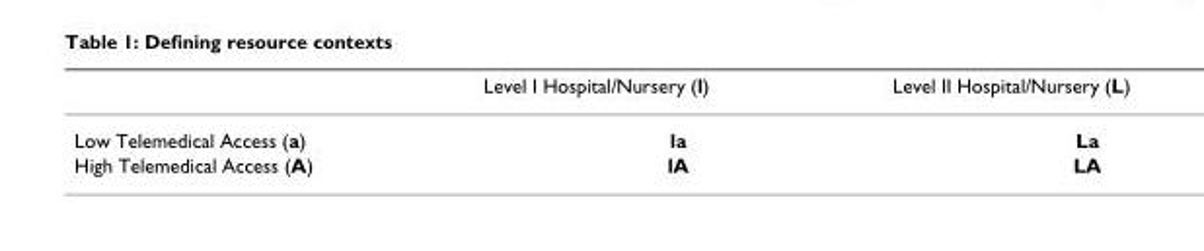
<table><thead><tr><td></td><td>Level I Hospital/Nursery (l)</td><td>Level II Hospital/Nursery (L)</td></tr></thead><tbody><tr><td>Low Telemedical Access (a)</td><td>la</td><td>La</td></tr><tr><td>High Telemedical Access (A)</td><td>lA</td><td>LA</td></tr></tbody></table>